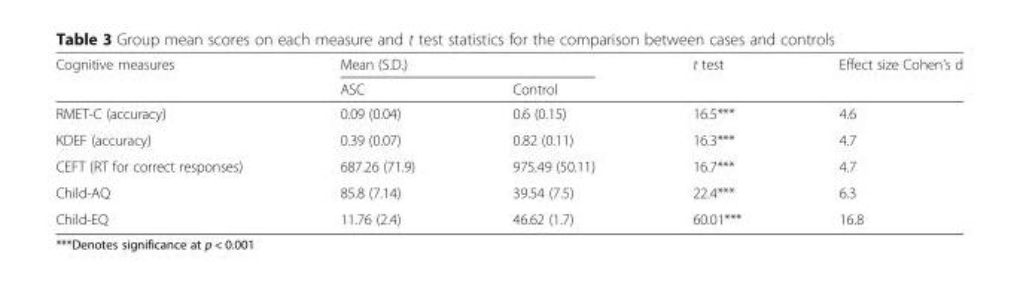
<table><thead><tr><td rowspan="2">Cognitive measures</td><td colspan="2">Mean (S.D.)</td><td rowspan="2">t test</td><td rowspan="2">Effect size Cohen’s d</td></tr><tr><td>ASC</td><td>Control</td></tr></thead><tbody><tr><td>RMET-C (accuracy)</td><td>0.09 (0.04)</td><td>0.6 (0.15)</td><td>16.5***</td><td>4.6</td></tr><tr><td>KDEF (accuracy)</td><td>0.39 (0.07)</td><td>0.82 (0.11)</td><td>16.3***</td><td>4.7</td></tr><tr><td>CEFT (RT for correct responses)</td><td>687.26 (71.9)</td><td>975.49 (50.11)</td><td>16.7***</td><td>4.7</td></tr><tr><td>Child-AQ</td><td>85.8 (7.14)</td><td>39.54 (7.5)</td><td>22.4***</td><td>6.3</td></tr><tr><td>Child-EQ</td><td>11.76 (2.4)</td><td>46.62 (1.7)</td><td>60.01***</td><td>16.8</td></tr></tbody></table>